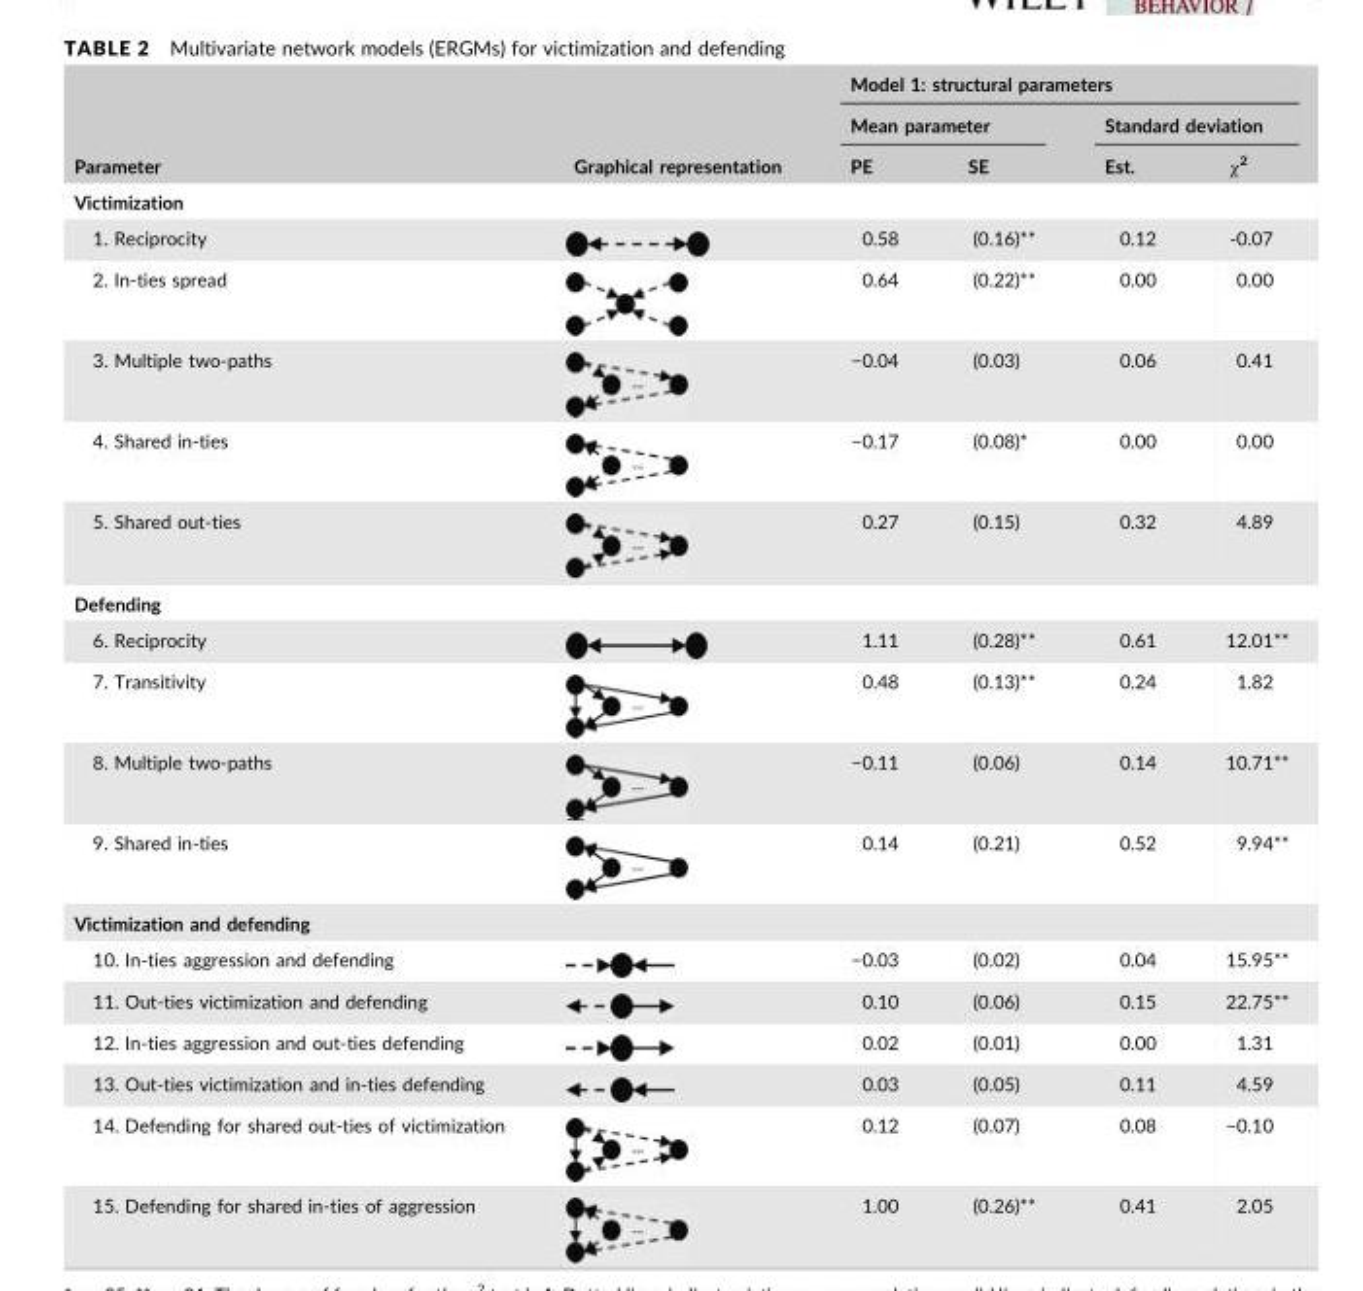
<table><thead><tr><td rowspan="3">Parameter</td><td rowspan="3">Graphical representation</td><td colspan="4">Model 1: structural parameters</td></tr><tr><td colspan="2">Mean parameter</td><td colspan="2">Standard deviation</td></tr><tr><td>PE</td><td>SE</td><td>Est.</td><td>χ<sup>2</sup></td></tr></thead><tbody><tr><td colspan="6">Victimization</td></tr><tr><td>1. Reciprocity</td><td></td><td>0.58</td><td>(0.16)**</td><td>0.12</td><td>-0.07</td></tr><tr><td>2. In-ties spread</td><td></td><td>0.64</td><td>(0.22)**</td><td>0.00</td><td>0.00</td></tr><tr><td>3. Multiple two-paths</td><td></td><td>−0.04</td><td>(0.03)</td><td>0.06</td><td>0.41</td></tr><tr><td>4. Shared in-ties</td><td></td><td>−0.17</td><td>(0.08)*</td><td>0.00</td><td>0.00</td></tr><tr><td>5. Shared out-ties</td><td></td><td>0.27</td><td>(0.15)</td><td>0.32</td><td>4.89</td></tr><tr><td colspan="6">Defending</td></tr><tr><td>6. Reciprocity</td><td></td><td>1.11</td><td>(0.28)**</td><td>0.61</td><td>12.01**</td></tr><tr><td>7. Transitivity</td><td></td><td>0.48</td><td>(0.13)**</td><td>0.24</td><td>1.82</td></tr><tr><td>8. Multiple two-paths</td><td></td><td>−0.11</td><td>(0.06)</td><td>0.14</td><td>10.71**</td></tr><tr><td>9. Shared in-ties</td><td></td><td>0.14</td><td>(0.21)</td><td>0.52</td><td>9.94**</td></tr><tr><td colspan="6">Victimization and defending</td></tr><tr><td>10. In-ties aggression and defending</td><td></td><td>−0.03</td><td>(0.02)</td><td>0.04</td><td>15.95**</td></tr><tr><td>11. Out-ties victimization and defending</td><td></td><td>0.10</td><td>(0.06)</td><td>0.15</td><td>22.75**</td></tr><tr><td>12. In-ties aggression and out-ties defending</td><td></td><td>0.02</td><td>(0.01)</td><td>0.00</td><td>1.31</td></tr><tr><td>13. Out-ties victimization and in-ties defending</td><td></td><td>0.03</td><td>(0.05)</td><td>0.11</td><td>4.59</td></tr><tr><td>14. Defending for shared out-ties of victimization</td><td></td><td>0.12</td><td>(0.07)</td><td>0.08</td><td>−0.10</td></tr><tr><td>15. Defending for shared in-ties of aggression</td><td></td><td>1.00</td><td>(0.26)**</td><td>0.41</td><td>2.05</td></tr></tbody></table>